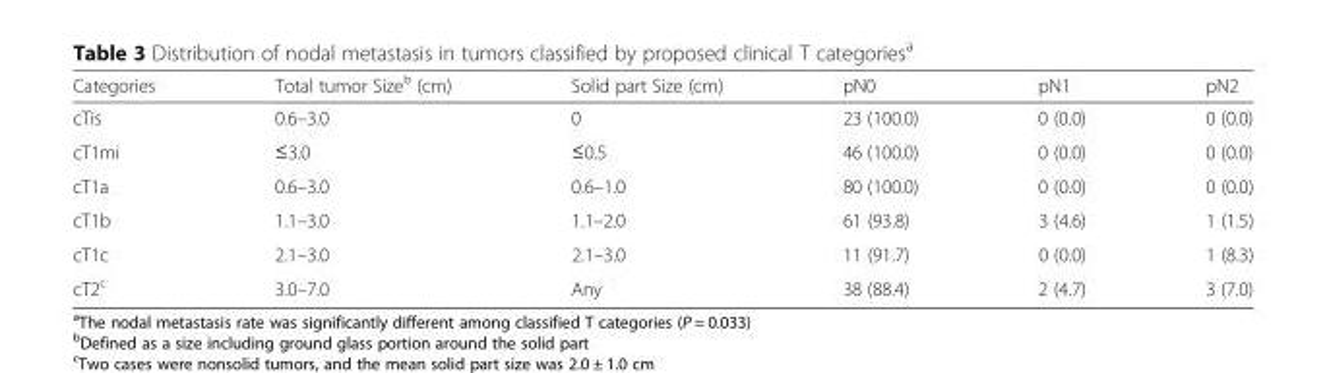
<table><thead><tr><td>Categories</td><td>Total tumor Size<sup>b</sup> (cm)</td><td>Solid part Size (cm)</td><td>pN0</td><td>pN1</td><td>pN2</td></tr></thead><tbody><tr><td>cTis</td><td>0.6–3.0</td><td>0</td><td>23 (100.0)</td><td>0 (0.0)</td><td>0 (0.0)</td></tr><tr><td>cT1mi</td><td>≤3.0</td><td>≤0.5</td><td>46 (100.0)</td><td>0 (0.0)</td><td>0 (0.0)</td></tr><tr><td>cT1a</td><td>0.6–3.0</td><td>0.6–1.0</td><td>80 (100.0)</td><td>0 (0.0)</td><td>0 (0.0)</td></tr><tr><td>cT1b</td><td>1.1–3.0</td><td>1.1–2.0</td><td>61 (93.8)</td><td>3 (4.6)</td><td>1 (1.5)</td></tr><tr><td>cT1c</td><td>2.1–3.0</td><td>2.1–3.0</td><td>11 (91.7)</td><td>0 (0.0)</td><td>1 (8.3)</td></tr><tr><td>cT2<sup>c</sup></td><td>3.0–7.0</td><td>Any</td><td>38 (88.4)</td><td>2 (4.7)</td><td>3 (7.0)</td></tr></tbody></table>